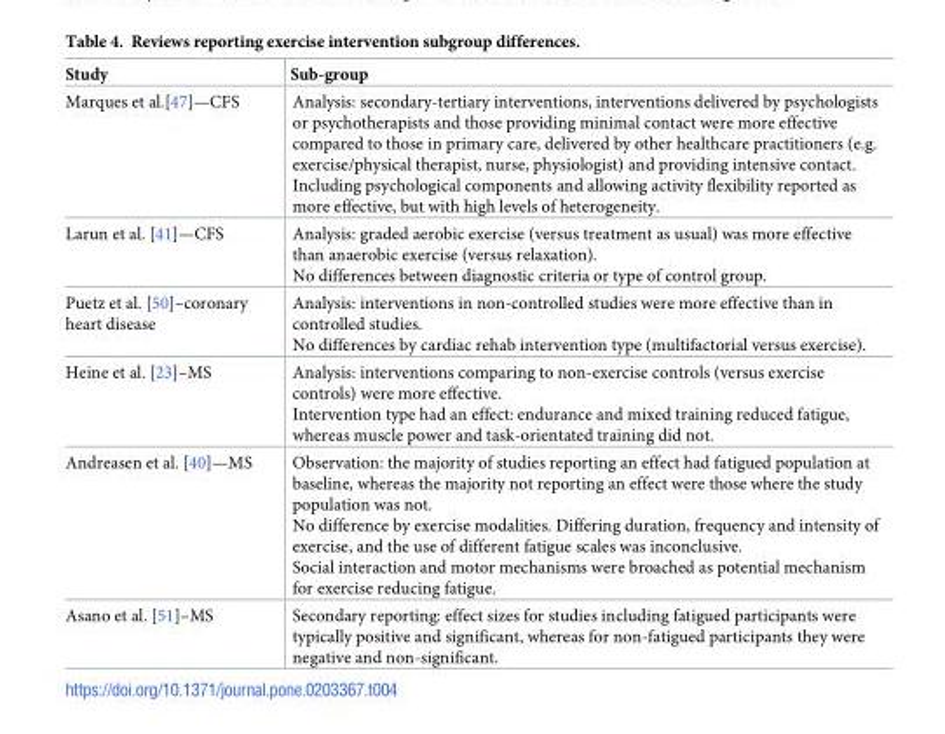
<table><thead><tr><td>Study</td><td>Sub-group</td></tr></thead><tbody><tr><td>Marques et al.[47]—CFS</td><td>Analysis: secondary-tertiary interventions, interventions delivered by psychologists or psychotherapists and those providing minimal contact were more effective compared to those in primary care, delivered by other healthcare practitioners (e.g. exercise/physical therapist, nurse, physiologist) and providing intensive contact. Including psychological components and allowing activity flexibility reported as more effective, but with high levels of heterogeneity.</td></tr><tr><td>Larun et al. [41]—CFS</td><td>Analysis: graded aerobic exercise (versus treatment as usual) was more effective than anaerobic exercise (versus relaxation). No differences between diagnostic criteria or type of control group.</td></tr><tr><td>Puetz et al. [50]–coronary heart disease</td><td>Analysis: interventions in non-controlled studies were more effective than in controlled studies. No differences by cardiac rehab intervention type (multifactorial versus exercise).</td></tr><tr><td>Heine et al. [23]–MS</td><td>Analysis: interventions comparing to non-exercise controls (versus exercise controls) were more effective. Intervention type had an effect: endurance and mixed training reduced fatigue, whereas muscle power and task-orientated training did not.</td></tr><tr><td>Andreasen et al. [40]—MS</td><td>Observation: the majority of studies reporting an effect had fatigued population at baseline, whereas the majority not reporting an effect were those where the study population was not. No difference by exercise modalities. Differing duration, frequency and intensity of exercise, and the use of different fatigue scales was inconclusive. Social interaction and motor mechanisms were broached as potential mechanism for exercise reducing fatigue.</td></tr><tr><td>Asano et al. [51]–MS</td><td>Secondary reporting: effect sizes for studies including fatigued participants were typically positive and significant, whereas for non-fatigued participants they were negative and non-significant.</td></tr></tbody></table>